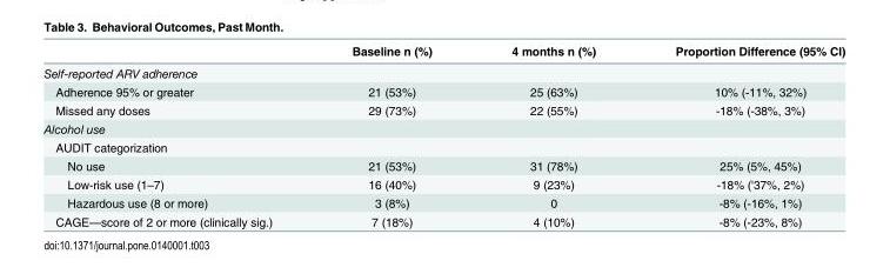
<table><thead><tr><td></td><td>Baseline n (%)</td><td>4 months n (%)</td><td>Proportion Difference (95% CI)</td></tr></thead><tbody><tr><td colspan="4">Self-reported ARV adherence</td></tr><tr><td>Adherence 95% or greater</td><td>21 (53%)</td><td>25 (63%)</td><td>10% (-11%, 32%)</td></tr><tr><td>Missed any doses</td><td>29 (73%)</td><td>22 (55%)</td><td>-18% (-38%, 3%)</td></tr><tr><td colspan="4">Alcohol use</td></tr><tr><td colspan="4">AUDIT categorization</td></tr><tr><td>No use</td><td>21 (53%)</td><td>31 (78%)</td><td>25% (5%, 45%)</td></tr><tr><td>Low-risk use (1–7)</td><td>16 (40%)</td><td>9 (23%)</td><td>-18% (&#x27;37%, 2%)</td></tr><tr><td>Hazardous use (8 or more)</td><td>3 (8%)</td><td>0</td><td>-8% (-16%, 1%)</td></tr><tr><td>CAGE—score of 2 or more (clinically sig.)</td><td>7 (18%)</td><td>4 (10%)</td><td>-8% (-23%, 8%)</td></tr></tbody></table>